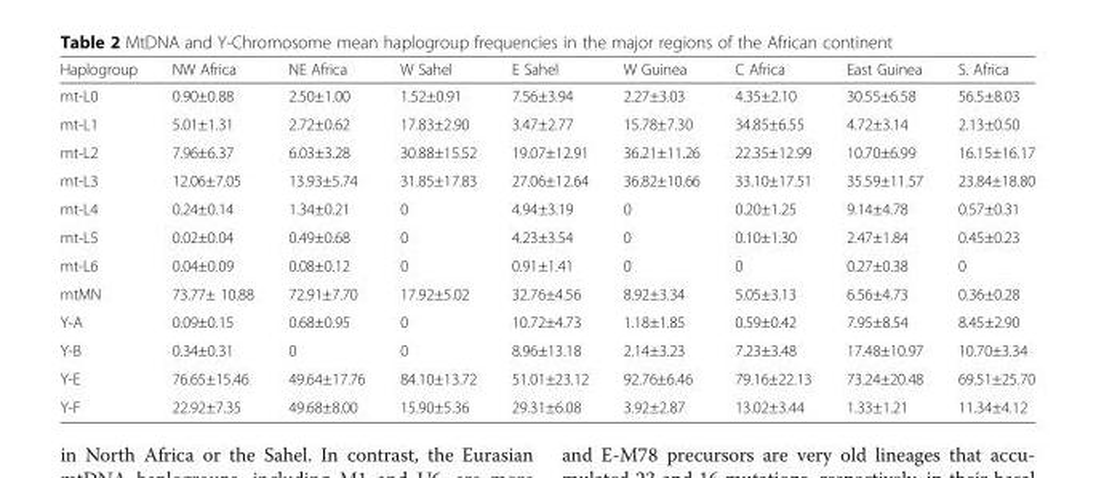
<table><thead><tr><td>Haplogroup</td><td>NW Africa</td><td>NE Africa</td><td>W Sahel</td><td>E Sahel</td><td>W Guinea</td><td>C Africa</td><td>East Guinea</td><td>S. Africa</td></tr></thead><tbody><tr><td>mt-L0</td><td>0.90±0.88</td><td>2.50±1.00</td><td>1.52±0.91</td><td>7.56±3.94</td><td>2.27±3.03</td><td>4.35±2.10</td><td>30.55±6.58</td><td>56.5±8.03</td></tr><tr><td>mt-L1</td><td>5.01±1.31</td><td>2.72±0.62</td><td>17.83±2.90</td><td>3.47±2.77</td><td>15.78±7.30</td><td>34.85±6.55</td><td>4.72±3.14</td><td>2.13±0.50</td></tr><tr><td>mt-L2</td><td>7.96±6.37</td><td>6.03±3.28</td><td>30.88±15.52</td><td>19.07±12.91</td><td>36.21±11.26</td><td>22.35±12.99</td><td>10.70±6.99</td><td>16.15±16.17</td></tr><tr><td>mt-L3</td><td>12.06±7.05</td><td>13.93±5.74</td><td>31.85±17.83</td><td>27.06±12.64</td><td>36.82±10.66</td><td>33.10±17.51</td><td>35.59±11.57</td><td>23.84±18.80</td></tr><tr><td>mt-L4</td><td>0.24±0.14</td><td>1.34±0.21</td><td>0</td><td>4.94±3.19</td><td>0</td><td>0.20±1.25</td><td>9.14±4.78</td><td>0.57±0.31</td></tr><tr><td>mt-L5</td><td>0.02±0.04</td><td>0.49±0.68</td><td>0</td><td>4.23±3.54</td><td>0</td><td>0.10±1.30</td><td>2.47±1.84</td><td>0.45±0.23</td></tr><tr><td>mt-L6</td><td>0.04±0.09</td><td>0.08±0.12</td><td>0</td><td>0.91±1.41</td><td>0</td><td>0</td><td>0.27±0.38</td><td>0</td></tr><tr><td>mtMN</td><td>73.77± 10.88</td><td>72.91±7.70</td><td>17.92±5.02</td><td>32.76±4.56</td><td>8.92±3.34</td><td>5.05±3.13</td><td>6.56±4.73</td><td>0.36±0.28</td></tr><tr><td>Y-A</td><td>0.09±0.15</td><td>0.68±0.95</td><td>0</td><td>10.72±4.73</td><td>1.18±1.85</td><td>0.59±0.42</td><td>7.95±8.54</td><td>8.45±2.90</td></tr><tr><td>Y-B</td><td>0.34±0.31</td><td>0</td><td>0</td><td>8.96±13.18</td><td>2.14±3.23</td><td>7.23±3.48</td><td>17.48±10.97</td><td>10.70±3.34</td></tr><tr><td>Y-E</td><td>76.65±15.46</td><td>49.64±17.76</td><td>84.10±13.72</td><td>51.01±23.12</td><td>92.76±6.46</td><td>79.16±22.13</td><td>73.24±20.48</td><td>69.51±25.70</td></tr><tr><td>Y-F</td><td>22.92±7.35</td><td>49.68±8.00</td><td>15.90±5.36</td><td>29.31±6.08</td><td>3.92±2.87</td><td>13.02±3.44</td><td>1.33±1.21</td><td>11.34±4.12</td></tr></tbody></table>